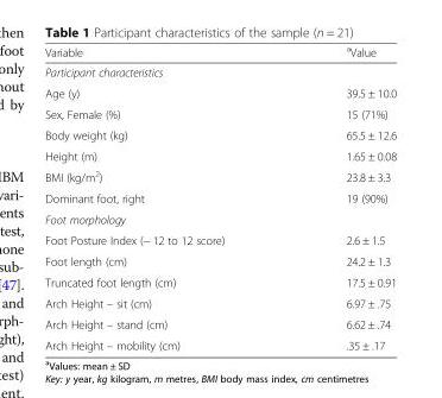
<table><thead><tr><td>Variable</td><td><sup>a</sup>Value</td></tr></thead><tbody><tr><td colspan="2">Participant characteristics</td></tr><tr><td>Age (y)</td><td>39.5 ± 10.0</td></tr><tr><td>Sex, Female (%)</td><td>15 (71%)</td></tr><tr><td>Body weight (kg)</td><td>65.5 ± 12.6</td></tr><tr><td>Height (m)</td><td>1.65 ± 0.08</td></tr><tr><td>BMI (kg/m<sup>2</sup>)</td><td>23.8 ± 3.3</td></tr><tr><td>Dominant foot, right</td><td>19 (90%)</td></tr><tr><td colspan="2">Foot morphology</td></tr><tr><td>Foot Posture Index (− 12 to 12 score)</td><td>2.6 ± 1.5</td></tr><tr><td>Foot length (cm)</td><td>24.2 ± 1.3</td></tr><tr><td>Truncated foot length (cm)</td><td>17.5 ± 0.91</td></tr><tr><td>Arch Height – sit (cm)</td><td>6.97 ± .75</td></tr><tr><td>Arch Height – stand (cm)</td><td>6.62 ± .74</td></tr><tr><td>Arch Height – mobility (cm)</td><td>.35 ± .17</td></tr></tbody></table>